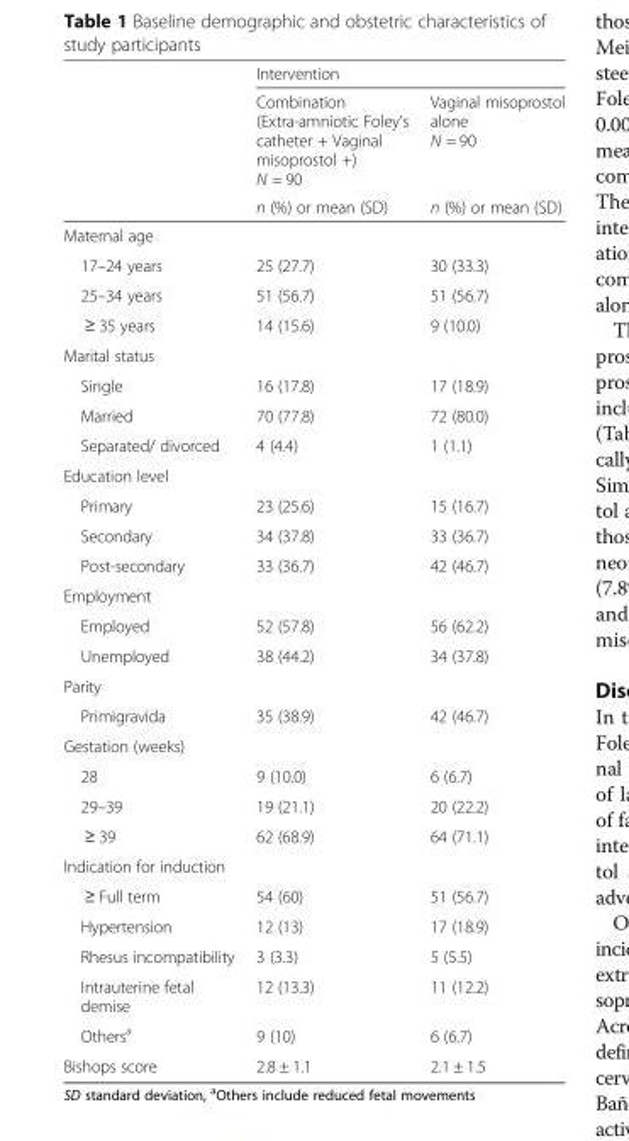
<table><thead><tr><td rowspan="3"></td><td colspan="2">Intervention</td></tr><tr><td rowspan="2">Combination (Extra-amniotic Foley’s catheter + Vaginal misoprostol +) N = 90 n (%) or mean (SD)</td><td rowspan="2">Vaginal misoprostol alone N = 90 n (%) or mean (SD)</td></tr><tr></tr></thead><tbody><tr><td colspan="3">Maternal age</td></tr><tr><td>17–24 years</td><td>25 (27.7)</td><td>30 (33.3)</td></tr><tr><td>25–34 years</td><td>51 (56.7)</td><td>51 (56.7)</td></tr><tr><td>≥ 35 years</td><td>14 (15.6)</td><td>9 (10.0)</td></tr><tr><td colspan="3">Marital status</td></tr><tr><td>Single</td><td>16 (17.8)</td><td>17 (18.9)</td></tr><tr><td>Married</td><td>70 (77.8)</td><td>72 (80.0)</td></tr><tr><td>Separated/ divorced</td><td>4 (4.4)</td><td>1 (1.1)</td></tr><tr><td colspan="3">Education level</td></tr><tr><td>Primary</td><td>23 (25.6)</td><td>15 (16.7)</td></tr><tr><td>Secondary</td><td>34 (37.8)</td><td>33 (36.7)</td></tr><tr><td>Post-secondary</td><td>33 (36.7)</td><td>42 (46.7)</td></tr><tr><td colspan="3">Employment</td></tr><tr><td>Employed</td><td>52 (57.8)</td><td>56 (62.2)</td></tr><tr><td>Unemployed</td><td>38 (44.2)</td><td>34 (37.8)</td></tr><tr><td colspan="3">Parity</td></tr><tr><td>Primigravida</td><td>35 (38.9)</td><td>42 (46.7)</td></tr><tr><td colspan="3">Gestation (weeks)</td></tr><tr><td>28</td><td>9 (10.0)</td><td>6 (6.7)</td></tr><tr><td>29–39</td><td>19 (21.1)</td><td>20 (22.2)</td></tr><tr><td>≥ 39</td><td>62 (68.9)</td><td>64 (71.1)</td></tr><tr><td colspan="3">Indication for induction</td></tr><tr><td>≥ Full term</td><td>54 (60)</td><td>51 (56.7)</td></tr><tr><td>Hypertension</td><td>12 (13)</td><td>17 (18.9)</td></tr><tr><td>Rhesus incompatibility</td><td>3 (3.3)</td><td>5 (5.5)</td></tr><tr><td>Intrauterine fetal demise</td><td>12 (13.3)</td><td>11 (12.2)</td></tr><tr><td>Others<sup>a</sup></td><td>9 (10)</td><td>6 (6.7)</td></tr><tr><td>Bishops score</td><td>2.8 ± 1.1</td><td>2.1 ± 1.5</td></tr></tbody></table>